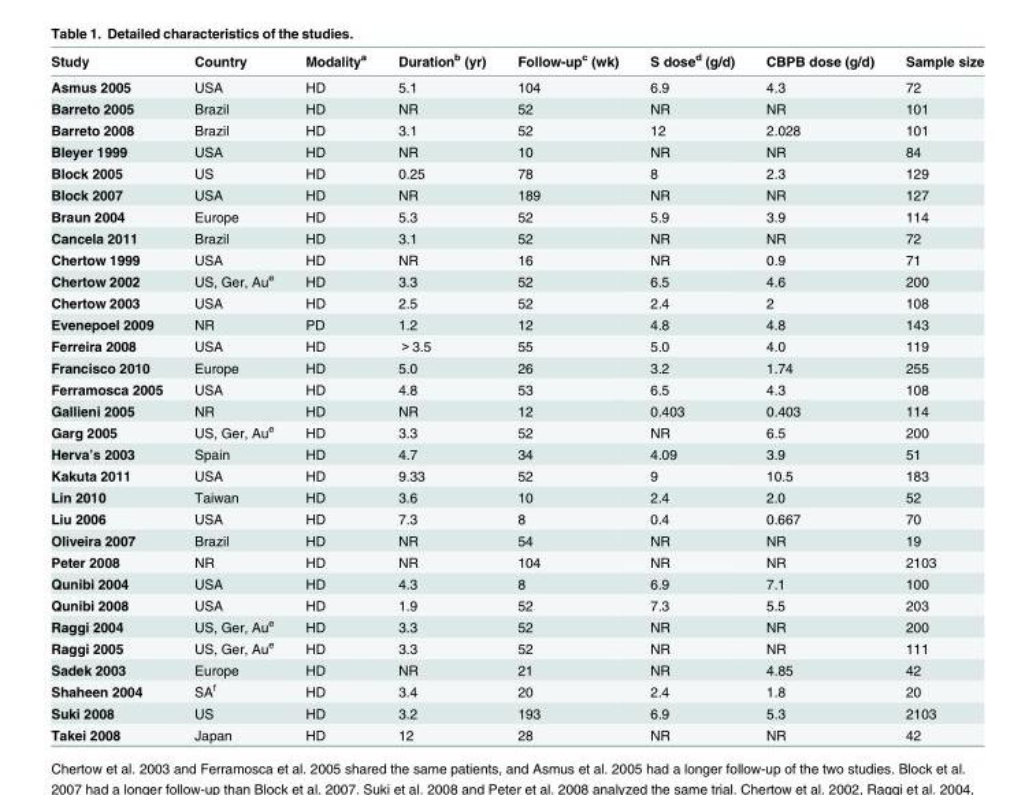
<table><thead><tr><td>Study</td><td>Country</td><td>Modality<sup>a</sup></td><td>Duration<sup>b</sup> (yr)</td><td>Follow-up<sup>c</sup> (wk)</td><td>S dose<sup>d</sup> (g/d)</td><td>CBPB dose (g/d)</td><td>Sample size</td></tr></thead><tbody><tr><td>Asmus 2005</td><td>USA</td><td>HD</td><td>5.1</td><td>104</td><td>6.9</td><td>4.3</td><td>72</td></tr><tr><td>Barreto 2005</td><td>Brazil</td><td>HD</td><td>NR</td><td>52</td><td>NR</td><td>NR</td><td>101</td></tr><tr><td>Barreto 2008</td><td>Brazil</td><td>HD</td><td>3.1</td><td>52</td><td>12</td><td>2.028</td><td>101</td></tr><tr><td>Bleyer 1999</td><td>USA</td><td>HD</td><td>NR</td><td>10</td><td>NR</td><td>NR</td><td>84</td></tr><tr><td>Block 2005</td><td>US</td><td>HD</td><td>0.25</td><td>78</td><td>8</td><td>2.3</td><td>129</td></tr><tr><td>Block 2007</td><td>USA</td><td>HD</td><td>NR</td><td>189</td><td>NR</td><td>NR</td><td>127</td></tr><tr><td>Braun 2004</td><td>Europe</td><td>HD</td><td>5.3</td><td>52</td><td>5.9</td><td>3.9</td><td>114</td></tr><tr><td>Cancela 2011</td><td>Brazil</td><td>HD</td><td>3.1</td><td>52</td><td>NR</td><td>NR</td><td>72</td></tr><tr><td>Chertow 1999</td><td>USA</td><td>HD</td><td>NR</td><td>16</td><td>NR</td><td>0.9</td><td>71</td></tr><tr><td>Chertow 2002</td><td>US, Ger, Au<sup>e</sup></td><td>HD</td><td>3.3</td><td>52</td><td>6.5</td><td>4.6</td><td>200</td></tr><tr><td>Chertow 2003</td><td>USA</td><td>HD</td><td>2.5</td><td>52</td><td>2.4</td><td>2</td><td>108</td></tr><tr><td>Evenepoel 2009</td><td>NR</td><td>PD</td><td>1.2</td><td>12</td><td>4.8</td><td>4.8</td><td>143</td></tr><tr><td>Ferreira 2008</td><td>USA</td><td>HD</td><td>＞3.5</td><td>55</td><td>5.0</td><td>4.0</td><td>119</td></tr><tr><td>Francisco 2010</td><td>Europe</td><td>HD</td><td>5.0</td><td>26</td><td>3.2</td><td>1.74</td><td>255</td></tr><tr><td>Ferramosca 2005</td><td>USA</td><td>HD</td><td>4.8</td><td>53</td><td>6.5</td><td>4.3</td><td>108</td></tr><tr><td>Gallieni 2005</td><td>NR</td><td>HD</td><td>NR</td><td>12</td><td>0.403</td><td>0.403</td><td>114</td></tr><tr><td>Garg 2005</td><td>US, Ger, Au<sup>e</sup></td><td>HD</td><td>3.3</td><td>52</td><td>NR</td><td>6.5</td><td>200</td></tr><tr><td>Herva’s 2003</td><td>Spain</td><td>HD</td><td>4.7</td><td>34</td><td>4.09</td><td>3.9</td><td>51</td></tr><tr><td>Kakuta 2011</td><td>USA</td><td>HD</td><td>9.33</td><td>52</td><td>9</td><td>10.5</td><td>183</td></tr><tr><td>Lin 2010</td><td>Taiwan</td><td>HD</td><td>3.6</td><td>10</td><td>2.4</td><td>2.0</td><td>52</td></tr><tr><td>Liu 2006</td><td>USA</td><td>HD</td><td>7.3</td><td>8</td><td>0.4</td><td>0.667</td><td>70</td></tr><tr><td>Oliveira 2007</td><td>Brazil</td><td>HD</td><td>NR</td><td>54</td><td>NR</td><td>NR</td><td>19</td></tr><tr><td>Peter 2008</td><td>NR</td><td>HD</td><td>NR</td><td>104</td><td>NR</td><td>NR</td><td>2103</td></tr><tr><td>Qunibi 2004</td><td>USA</td><td>HD</td><td>4.3</td><td>8</td><td>6.9</td><td>7.1</td><td>100</td></tr><tr><td>Qunibi 2008</td><td>USA</td><td>HD</td><td>1.9</td><td>52</td><td>7.3</td><td>5.5</td><td>203</td></tr><tr><td>Raggi 2004</td><td>US, Ger, Au<sup>e</sup></td><td>HD</td><td>3.3</td><td>52</td><td>NR</td><td>NR</td><td>200</td></tr><tr><td>Raggi 2005</td><td>US, Ger, Au<sup>e</sup></td><td>HD</td><td>3.3</td><td>52</td><td>NR</td><td>NR</td><td>111</td></tr><tr><td>Sadek 2003</td><td>Europe</td><td>HD</td><td>NR</td><td>21</td><td>NR</td><td>4.85</td><td>42</td></tr><tr><td>Shaheen 2004</td><td>SA<sup>f</sup></td><td>HD</td><td>3.4</td><td>20</td><td>2.4</td><td>1.8</td><td>20</td></tr><tr><td>Suki 2008</td><td>US</td><td>HD</td><td>3.2</td><td>193</td><td>6.9</td><td>5.3</td><td>2103</td></tr><tr><td>Takei 2008</td><td>Japan</td><td>HD</td><td>12</td><td>28</td><td>NR</td><td>NR</td><td>42</td></tr></tbody></table>